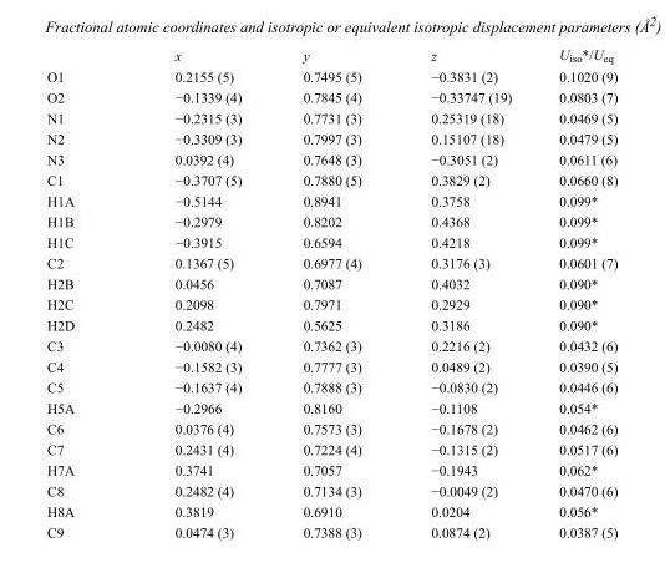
<table><thead><tr><td></td><td>x</td><td>y</td><td>z</td><td>U<sub>iso</sub>*/U<sub>eq</sub></td></tr></thead><tbody><tr><td>O1</td><td>0.2155 (5)</td><td>0.7495 (5)</td><td>−0.3831 (2)</td><td>0.1020 (9)</td></tr><tr><td>O2</td><td>−0.1339 (4)</td><td>0.7845 (4)</td><td>−0.33747 (19)</td><td>0.0803 (7)</td></tr><tr><td>N1</td><td>−0.2315 (3)</td><td>0.7731 (3)</td><td>0.25319 (18)</td><td>0.0469 (5)</td></tr><tr><td>N2</td><td>−0.3309 (3)</td><td>0.7997 (3)</td><td>0.15107 (18)</td><td>0.0479 (5)</td></tr><tr><td>N3</td><td>0.0392 (4)</td><td>0.7648 (3)</td><td>−0.3051 (2)</td><td>0.0611 (6)</td></tr><tr><td>C1</td><td>−0.3707 (5)</td><td>0.7880 (5)</td><td>0.3829 (2)</td><td>0.0660 (8)</td></tr><tr><td>H1A</td><td>−0.5144</td><td>0.8941</td><td>0.3758</td><td>0.099*</td></tr><tr><td>H1B</td><td>−0.2979</td><td>0.8202</td><td>0.4368</td><td>0.099*</td></tr><tr><td>H1C</td><td>−0.3915</td><td>0.6594</td><td>0.4218</td><td>0.099*</td></tr><tr><td>C2</td><td>0.1367 (5)</td><td>0.6977 (4)</td><td>0.3176 (3)</td><td>0.0601 (7)</td></tr><tr><td>H2B</td><td>0.0456</td><td>0.7087</td><td>0.4032</td><td>0.090*</td></tr><tr><td>H2C</td><td>0.2098</td><td>0.7971</td><td>0.2929</td><td>0.090*</td></tr><tr><td>H2D</td><td>0.2482</td><td>0.5625</td><td>0.3186</td><td>0.090*</td></tr><tr><td>C3</td><td>−0.0080 (4)</td><td>0.7362 (3)</td><td>0.2216 (2)</td><td>0.0432 (6)</td></tr><tr><td>C4</td><td>−0.1582 (3)</td><td>0.7777 (3)</td><td>0.0489 (2)</td><td>0.0390 (5)</td></tr><tr><td>C5</td><td>−0.1637 (4)</td><td>0.7888 (3)</td><td>−0.0830 (2)</td><td>0.0446 (6)</td></tr><tr><td>H5A</td><td>−0.2966</td><td>0.8160</td><td>−0.1108</td><td>0.054*</td></tr><tr><td>C6</td><td>0.0376 (4)</td><td>0.7573 (3)</td><td>−0.1678 (2)</td><td>0.0462 (6)</td></tr><tr><td>C7</td><td>0.2431 (4)</td><td>0.7224 (4)</td><td>−0.1315 (2)</td><td>0.0517 (6)</td></tr><tr><td>H7A</td><td>0.3741</td><td>0.7057</td><td>−0.1943</td><td>0.062*</td></tr><tr><td>C8</td><td>0.2482 (4)</td><td>0.7134 (3)</td><td>−0.0049 (2)</td><td>0.0470 (6)</td></tr><tr><td>H8A</td><td>0.3819</td><td>0.6910</td><td>0.0204</td><td>0.056*</td></tr><tr><td>C9</td><td>0.0474 (3)</td><td>0.7388 (3)</td><td>0.0874 (2)</td><td>0.0387 (5)</td></tr></tbody></table>